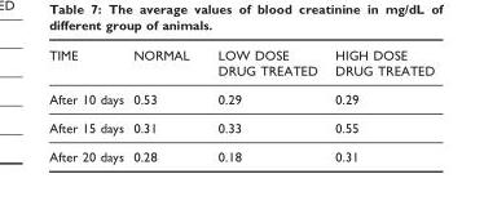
<table><thead><tr><td>TIME</td><td>NORMAL</td><td>LOW DOSE DRUG TREATED</td><td>HIGH DOSE DRUG TREATED</td></tr></thead><tbody><tr><td>After 10 days</td><td>0.53</td><td>0.29</td><td>0.29</td></tr><tr><td>After 15 days</td><td>0.31</td><td>0.33</td><td>0.55</td></tr><tr><td>After 20 days</td><td>0.28</td><td>0.18</td><td>0.31</td></tr></tbody></table>